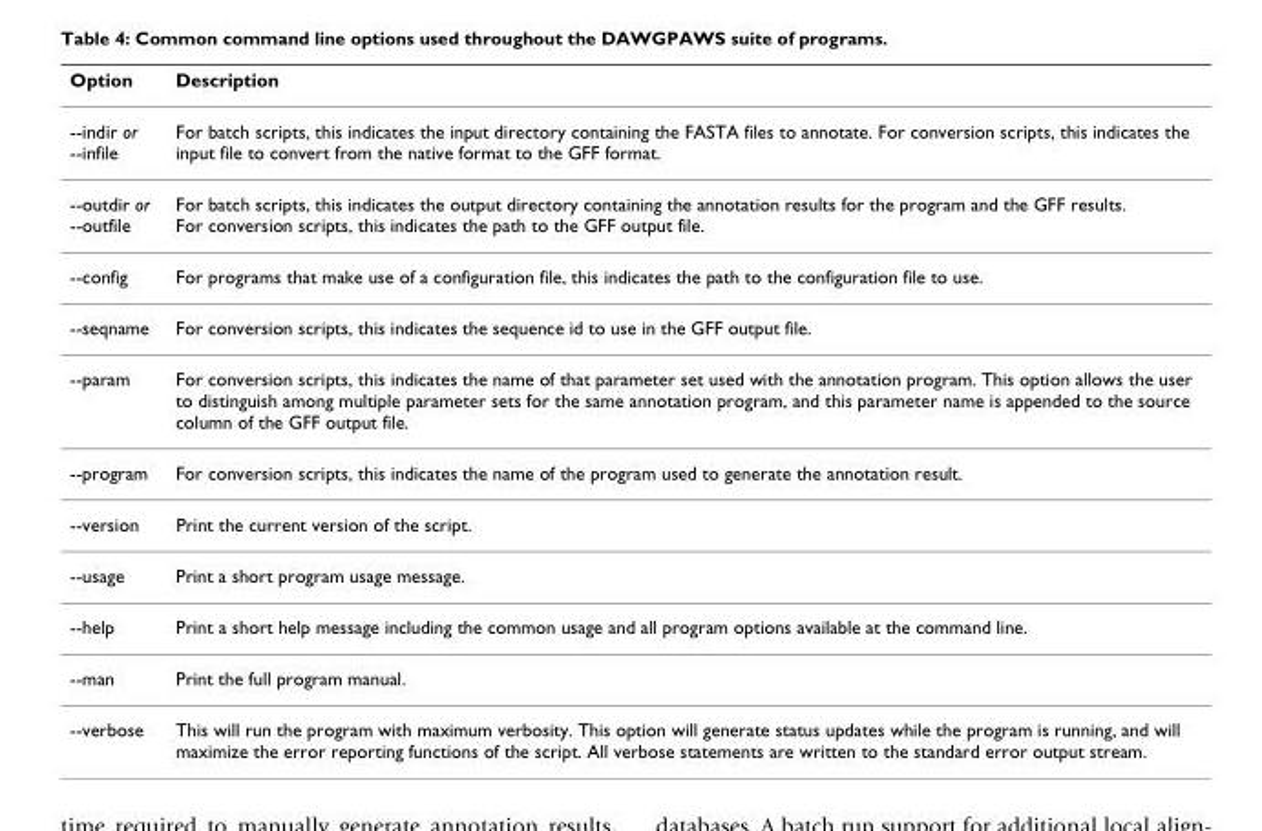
<table><thead><tr><td>Option</td><td>Description</td></tr></thead><tbody><tr><td>--indir or --infile</td><td>For batch scripts, this indicates the input directory containing the FASTA files to annotate. For conversion scripts, this indicates the input file to convert from the native format to the GFF format.</td></tr><tr><td>--outdir or --outfile</td><td>For batch scripts, this indicates the output directory containing the annotation results for the program and the GFF results. For conversion scripts, this indicates the path to the GFF output file.</td></tr><tr><td>--config</td><td>For programs that make use of a configuration file, this indicates the path to the configuration file to use.</td></tr><tr><td>--seqname</td><td>For conversion scripts, this indicates the sequence id to use in the GFF output file.</td></tr><tr><td>--param</td><td>For conversion scripts, this indicates the name of that parameter set used with the annotation program. This option allows the user to distinguish among multiple parameter sets for the same annotation program, and this parameter name is appended to the source column of the GFF output file.</td></tr><tr><td>--program</td><td>For conversion scripts, this indicates the name of the program used to generate the annotation result.</td></tr><tr><td>--version</td><td>Print the current version of the script.</td></tr><tr><td>--usage</td><td>Print a short program usage message.</td></tr><tr><td>--help</td><td>Print a short help message including the common usage and all program options available at the command line.</td></tr><tr><td>--man</td><td>Print the full program manual.</td></tr><tr><td>--verbose</td><td>This will run the program with maximum verbosity. This option will generate status updates while the program is running, and will maximize the error reporting functions of the script. All verbose statements are written to the standard error output stream.</td></tr></tbody></table>